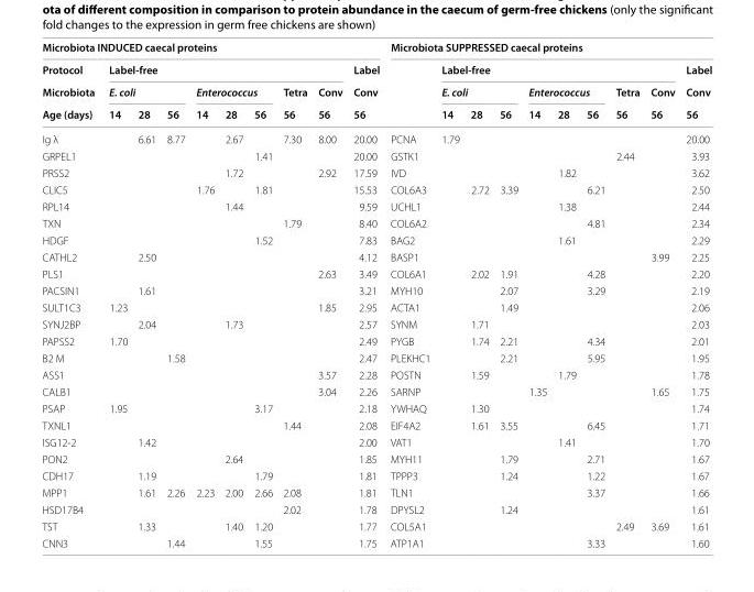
<table><thead><tr><td colspan="10">Microbiota INDUCED caecal proteins</td><td colspan="10">Microbiota SUPPRESSED caecal proteins</td></tr><tr><td rowspan="3">Protocol Microbiota Age (days)</td><td colspan="8">Label-free</td><td rowspan="3">Label Conv 56</td><td rowspan="3"></td><td colspan="8">Label-free</td><td rowspan="3">Label Conv 56</td></tr><tr><td colspan="3">E. coli</td><td colspan="3">Enterococcus</td><td rowspan="2">Tetra 56</td><td rowspan="2">Conv 56</td><td colspan="3">E. coli</td><td colspan="3">Enterococcus</td><td rowspan="2">Tetra 56</td><td rowspan="2">Conv 56</td></tr><tr><td>14</td><td>28</td><td>56</td><td>14</td><td>28</td><td>56</td><td>14</td><td>28</td><td>56</td><td>14</td><td>28</td><td>56</td></tr></thead><tbody><tr><td>Ig λ</td><td></td><td>6.61</td><td>8.77</td><td></td><td>2.67</td><td></td><td>7.30</td><td>8.00</td><td>20.00</td><td>PCNA</td><td>1.79</td><td></td><td></td><td></td><td></td><td></td><td></td><td></td><td>20.00</td></tr><tr><td>GRPEL1</td><td></td><td></td><td></td><td></td><td></td><td>1.41</td><td></td><td></td><td>20.00</td><td>GSTK1</td><td></td><td></td><td></td><td></td><td></td><td></td><td>2.44</td><td></td><td>3.93</td></tr><tr><td>PRSS2</td><td></td><td></td><td></td><td></td><td>1.72</td><td></td><td></td><td>2.92</td><td>17.59</td><td>IVD</td><td></td><td></td><td></td><td></td><td>1.82</td><td></td><td></td><td></td><td>3.62</td></tr><tr><td>CLIC5</td><td></td><td></td><td></td><td>1.76</td><td></td><td>1.81</td><td></td><td></td><td>15.53</td><td>COL6A3</td><td></td><td>2.72</td><td>3.39</td><td></td><td></td><td>6.21</td><td></td><td></td><td>2.50</td></tr><tr><td>RPL14</td><td></td><td></td><td></td><td></td><td>1.44</td><td></td><td></td><td></td><td>9.59</td><td>UCHL1</td><td></td><td></td><td></td><td></td><td>1.38</td><td></td><td></td><td></td><td>2.44</td></tr><tr><td>TXN</td><td></td><td></td><td></td><td></td><td></td><td></td><td>1.79</td><td></td><td>8.40</td><td>COL6A2</td><td></td><td></td><td></td><td></td><td></td><td>4.81</td><td></td><td></td><td>2.34</td></tr><tr><td>HDGF</td><td></td><td></td><td></td><td></td><td></td><td>1.52</td><td></td><td></td><td>7.83</td><td>BAG2</td><td></td><td></td><td></td><td></td><td>1.61</td><td></td><td></td><td></td><td>2.29</td></tr><tr><td>CATHL2</td><td></td><td>2.50</td><td></td><td></td><td></td><td></td><td></td><td></td><td>4.12</td><td>BASP1</td><td></td><td></td><td></td><td></td><td></td><td></td><td></td><td>3.99</td><td>2.25</td></tr><tr><td>PLS1</td><td></td><td></td><td></td><td></td><td></td><td></td><td></td><td>2.63</td><td>3.49</td><td>COL6A1</td><td></td><td>2.02</td><td>1.91</td><td></td><td></td><td>4.28</td><td></td><td></td><td>2.20</td></tr><tr><td>PACSIN1</td><td></td><td>1.61</td><td></td><td></td><td></td><td></td><td></td><td></td><td>3.21</td><td>MYH10</td><td></td><td></td><td>2.07</td><td></td><td></td><td>3.29</td><td></td><td></td><td>2.19</td></tr><tr><td>SULT1C3</td><td>1.23</td><td></td><td></td><td></td><td></td><td></td><td></td><td>1.85</td><td>2.95</td><td>ACTA1</td><td></td><td></td><td>1.49</td><td></td><td></td><td></td><td></td><td></td><td>2.06</td></tr><tr><td>SYNJ2BP</td><td></td><td>2.04</td><td></td><td></td><td>1.73</td><td></td><td></td><td></td><td>2.57</td><td>SYNM</td><td></td><td>1.71</td><td></td><td></td><td></td><td></td><td></td><td></td><td>2.03</td></tr><tr><td>PAPSS2</td><td>1.70</td><td></td><td></td><td></td><td></td><td></td><td></td><td></td><td>2.49</td><td>PYGB</td><td></td><td>1.74</td><td>2.21</td><td></td><td></td><td>4.34</td><td></td><td></td><td>2.01</td></tr><tr><td>B2 M</td><td></td><td></td><td>1.58</td><td></td><td></td><td></td><td></td><td></td><td>2.47</td><td>PLEKHC1</td><td></td><td></td><td>2.21</td><td></td><td></td><td>5.95</td><td></td><td></td><td>1.95</td></tr><tr><td>ASS1</td><td></td><td></td><td></td><td></td><td></td><td></td><td></td><td>3.57</td><td>2.28</td><td>POSTN</td><td></td><td>1.59</td><td></td><td></td><td>1.79</td><td></td><td></td><td></td><td>1.78</td></tr><tr><td>CALB1</td><td></td><td></td><td></td><td></td><td></td><td></td><td></td><td>3.04</td><td>2.26</td><td>SARNP</td><td></td><td></td><td></td><td>1.35</td><td></td><td></td><td></td><td>1.65</td><td>1.75</td></tr><tr><td>PSAP</td><td>1.95</td><td></td><td></td><td></td><td></td><td>3.17</td><td></td><td></td><td>2.18</td><td>YWHAQ</td><td></td><td>1.30</td><td></td><td></td><td></td><td></td><td></td><td></td><td>1.74</td></tr><tr><td>TXNL1</td><td></td><td></td><td></td><td></td><td></td><td></td><td>1.44</td><td></td><td>2.08</td><td>EIF4A2</td><td></td><td>1.61</td><td>3.55</td><td></td><td></td><td>6.45</td><td></td><td></td><td>1.71</td></tr><tr><td>ISG12-2</td><td></td><td>1.42</td><td></td><td></td><td></td><td></td><td></td><td></td><td>2.00</td><td>VAT1</td><td></td><td></td><td></td><td></td><td>1.41</td><td></td><td></td><td></td><td>1.70</td></tr><tr><td>PON2</td><td></td><td></td><td></td><td></td><td>2.64</td><td></td><td></td><td></td><td>1.85</td><td>MYH11</td><td></td><td></td><td>1.79</td><td></td><td></td><td>2.71</td><td></td><td></td><td>1.67</td></tr><tr><td>CDH17</td><td></td><td>1.19</td><td></td><td></td><td></td><td>1.79</td><td></td><td></td><td>1.81</td><td>TPPP3</td><td></td><td></td><td>1.24</td><td></td><td></td><td>1.22</td><td></td><td></td><td>1.67</td></tr><tr><td>MPP1</td><td></td><td>1.61</td><td>2.26</td><td>2.23</td><td>2.00</td><td>2.66</td><td>2.08</td><td></td><td>1.81</td><td>TLN1</td><td></td><td></td><td></td><td></td><td></td><td>3.37</td><td></td><td></td><td>1.66</td></tr><tr><td>HSD17B4</td><td></td><td></td><td></td><td></td><td></td><td></td><td>2.02</td><td></td><td>1.78</td><td>DPYSL2</td><td></td><td></td><td>1.24</td><td></td><td></td><td></td><td></td><td></td><td>1.61</td></tr><tr><td>TST</td><td></td><td>1.33</td><td></td><td></td><td>1.40</td><td>1.20</td><td></td><td></td><td>1.77</td><td>COL5A1</td><td></td><td></td><td></td><td></td><td></td><td></td><td>2.49</td><td>3.69</td><td>1.61</td></tr><tr><td>CNN3</td><td></td><td></td><td>1.44</td><td></td><td></td><td>1.55</td><td></td><td></td><td>1.75</td><td>ATP1A1</td><td></td><td></td><td></td><td></td><td></td><td>3.33</td><td></td><td></td><td>1.60</td></tr></tbody></table>